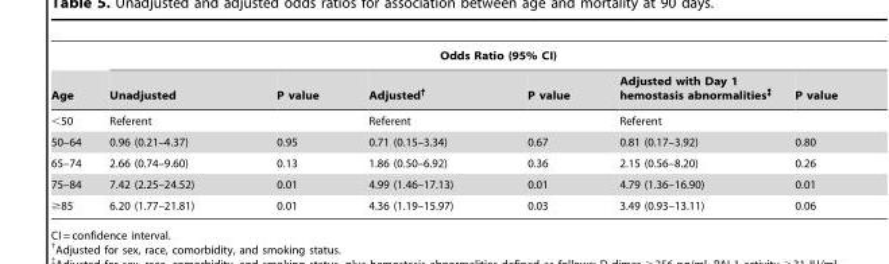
<table><thead><tr><td rowspan="2">Age</td><td colspan="6">Odds Ratio (95% CI)</td></tr><tr><td>Unadjusted</td><td>P value</td><td>Adjusted†</td><td>P value</td><td>Adjusted with Day 1 hemostasis abnormalities‡</td><td>P value</td></tr></thead><tbody><tr><td>&lt;50</td><td>Referent</td><td></td><td>Referent</td><td></td><td>Referent</td><td></td></tr><tr><td>50–64</td><td>0.96 (0.21–4.37)</td><td>0.95</td><td>0.71 (0.15–3.34)</td><td>0.67</td><td>0.81 (0.17–3.92)</td><td>0.80</td></tr><tr><td>65–74</td><td>2.66 (0.74–9.60)</td><td>0.13</td><td>1.86 (0.50–6.92)</td><td>0.36</td><td>2.15 (0.56–8.20)</td><td>0.26</td></tr><tr><td>75–84</td><td>7.42 (2.25–24.52)</td><td>0.01</td><td>4.99 (1.46–17.13)</td><td>0.01</td><td>4.79 (1.36–16.90)</td><td>0.01</td></tr><tr><td>≥85</td><td>6.20 (1.77–21.81)</td><td>0.01</td><td>4.36 (1.19–15.97)</td><td>0.03</td><td>3.49 (0.93–13.11)</td><td>0.06</td></tr></tbody></table>